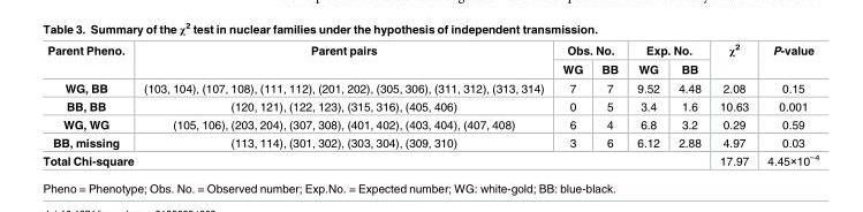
<table><thead><tr><td rowspan="2">Parent Pheno.</td><td rowspan="2">Parent pairs</td><td colspan="2">Obs. No.</td><td colspan="2">Exp. No.</td><td rowspan="2">χ<sup>2</sup></td><td rowspan="2">P-value</td></tr><tr><td>WG</td><td>BB</td><td>WG</td><td>BB</td></tr></thead><tbody><tr><td>WG, BB</td><td>(103, 104), (107, 108), (111, 112), (201, 202), (305, 306), (311, 312), (313, 314)</td><td>7</td><td>7</td><td>9.52</td><td>4.48</td><td>2.08</td><td>0.15</td></tr><tr><td>BB, BB</td><td>(120, 121), (122, 123), (315, 316), (405, 406)</td><td>0</td><td>5</td><td>3.4</td><td>1.6</td><td>10.63</td><td>0.001</td></tr><tr><td>WG, WG</td><td>(105, 106), (203, 204), (307, 308), (401, 402), (403, 404), (407, 408)</td><td>6</td><td>4</td><td>6.8</td><td>3.2</td><td>0.29</td><td>0.59</td></tr><tr><td>BB, missing</td><td>(113, 114), (301, 302), (303, 304), (309, 310)</td><td>3</td><td>6</td><td>6.12</td><td>2.88</td><td>4.97</td><td>0.03</td></tr><tr><td colspan="6">Total Chi-square</td><td>17.97</td><td>4.45×10<sup>−4</sup></td></tr></tbody></table>